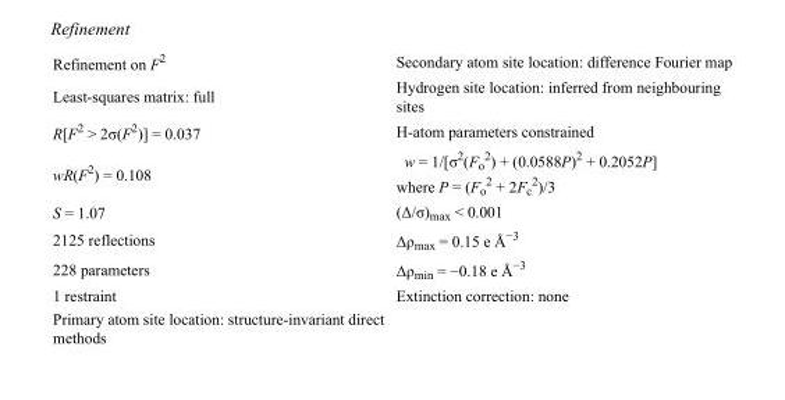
<table><tbody><tr><td>Refinement on F<sup>2</sup></td><td>Secondary atom site location: difference Fourier map</td></tr><tr><td>Least-squares matrix: full</td><td>Hydrogen site location: inferred from neighbouring sites</td></tr><tr><td>R[F<sup>2</sup> &gt; 2σ(F<sup>2</sup>)] = 0.037</td><td>H-atom parameters constrained</td></tr><tr><td>wR(F<sup>2</sup>) = 0.108</td><td>w = 1/[σ<sup>2</sup>(F<sub>o</sub> <sup>2</sup>) + (0.0588P)<sup>2</sup> + 0.2052P] where P = (F<sub>o</sub> <sup>2</sup> + 2F<sub>c</sub> <sup>2</sup>)/3</td></tr><tr><td>S = 1.07</td><td>(Δ/σ)<sub>max</sub> &lt; 0.001</td></tr><tr><td>2125 reflections</td><td>Δρ<sub>max</sub> = 0.15 e Å<sup>−3</sup></td></tr><tr><td>228 parameters</td><td>Δρ<sub>min</sub> = −0.18 e Å<sup>−3</sup></td></tr><tr><td>1 restraint</td><td>Extinction correction: none</td></tr><tr><td>Primary atom site location: structure-invariant direct methods</td><td></td></tr></tbody></table>